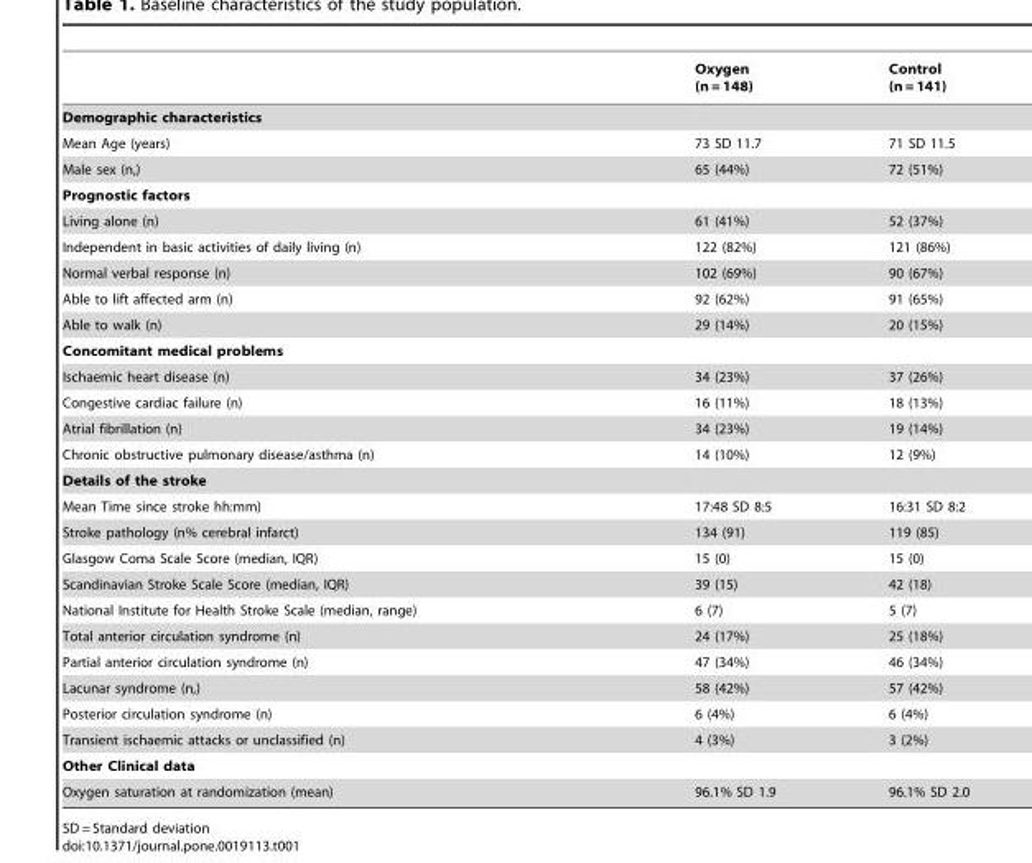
<table><thead><tr><td></td><td>Oxygen (n = 148)</td><td>Control (n = 141)</td></tr></thead><tbody><tr><td colspan="3">Demographic characteristics</td></tr><tr><td>Mean Age (years)</td><td>73 SD 11.7</td><td>71 SD 11.5</td></tr><tr><td>Male sex (n,)</td><td>65 (44%)</td><td>72 (51%)</td></tr><tr><td colspan="3">Prognostic factors</td></tr><tr><td>Living alone (n)</td><td>61 (41%)</td><td>52 (37%)</td></tr><tr><td>Independent in basic activities of daily living (n)</td><td>122 (82%)</td><td>121 (86%)</td></tr><tr><td>Normal verbal response (n)</td><td>102 (69%)</td><td>90 (67%)</td></tr><tr><td>Able to lift affected arm (n)</td><td>92 (62%)</td><td>91 (65%)</td></tr><tr><td>Able to walk (n)</td><td>29 (14%)</td><td>20 (15%)</td></tr><tr><td colspan="3">Concomitant medical problems</td></tr><tr><td>Ischaemic heart disease (n)</td><td>34 (23%)</td><td>37 (26%)</td></tr><tr><td>Congestive cardiac failure (n)</td><td>16 (11%)</td><td>18 (13%)</td></tr><tr><td>Atrial fibrillation (n)</td><td>34 (23%)</td><td>19 (14%)</td></tr><tr><td>Chronic obstructive pulmonary disease/asthma (n)</td><td>14 (10%)</td><td>12 (9%)</td></tr><tr><td colspan="3">Details of the stroke</td></tr><tr><td>Mean Time since stroke hh:mm)</td><td>17:48 SD 8:5</td><td>16:31 SD 8:2</td></tr><tr><td>Stroke pathology (n% cerebral infarct)</td><td>134 (91)</td><td>119 (85)</td></tr><tr><td>Glasgow Coma Scale Score (median, IQR)</td><td>15 (0)</td><td>15 (0)</td></tr><tr><td>Scandinavian Stroke Scale Score (median, IQR)</td><td>39 (15)</td><td>42 (18)</td></tr><tr><td>National Institute for Health Stroke Scale (median, range)</td><td>6 (7)</td><td>5 (7)</td></tr><tr><td>Total anterior circulation syndrome (n)</td><td>24 (17%)</td><td>25 (18%)</td></tr><tr><td>Partial anterior circulation syndrome (n)</td><td>47 (34%)</td><td>46 (34%)</td></tr><tr><td>Lacunar syndrome (n,)</td><td>58 (42%)</td><td>57 (42%)</td></tr><tr><td>Posterior circulation syndrome (n)</td><td>6 (4%)</td><td>6 (4%)</td></tr><tr><td>Transient ischaemic attacks or unclassified (n)</td><td>4 (3%)</td><td>3 (2%)</td></tr><tr><td colspan="3">Other Clinical data</td></tr><tr><td>Oxygen saturation at randomization (mean)</td><td>96.1% SD 1.9</td><td>96.1% SD 2.0</td></tr></tbody></table>